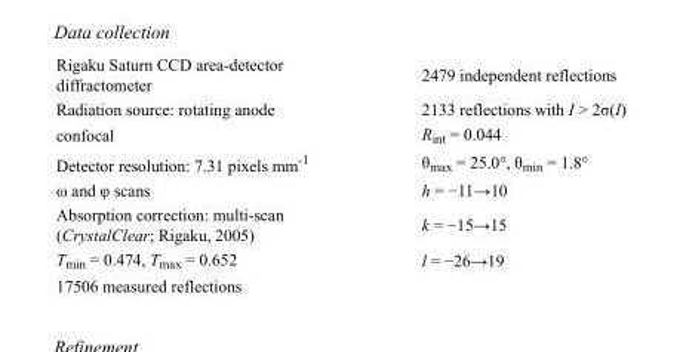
<table><tbody><tr><td>Rigaku Saturn CCD area-detector diffractometer</td><td>2479 independent reflections</td></tr><tr><td>Radiation source: rotating anode</td><td>2133 reflections with I &gt; 2σ(I)</td></tr><tr><td>confocal</td><td>R<sub>int</sub> = 0.044</td></tr><tr><td>Detector resolution: 7.31 pixels mm<sup>-1</sup></td><td>θ<sub>max</sub> = 25.0°, θ<sub>min</sub> = 1.8°</td></tr><tr><td>ω and φ scans</td><td>h = −11→10</td></tr><tr><td>Absorption correction: multi-scan (CrystalClear; Rigaku, 2005)</td><td>k = −15→15</td></tr><tr><td>T<sub>min</sub> = 0.474, T<sub>max</sub> = 0.652</td><td>l = −26→19</td></tr><tr><td>17506 measured reflections</td><td></td></tr></tbody></table>